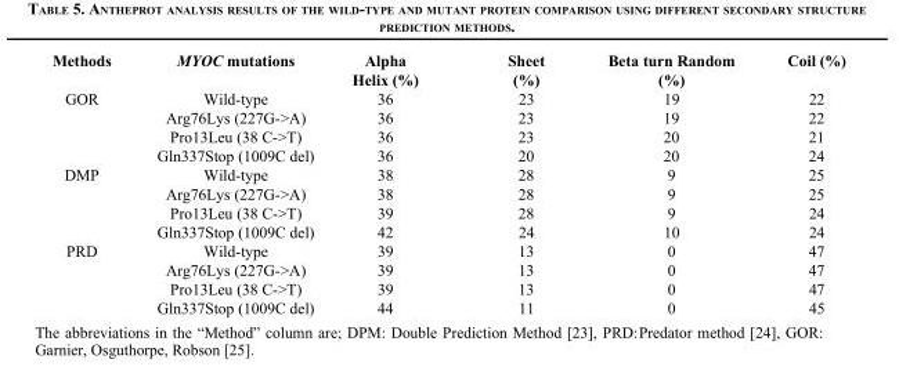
<table><thead><tr><td>Methods</td><td>MYOC mutations</td><td>Alpha Helix (%)</td><td>Sheet (%)</td><td>Beta turn Random (%)</td><td>Coil (%)</td></tr></thead><tbody><tr><td rowspan="4">GOR</td><td>Wild-type</td><td>36</td><td>23</td><td>19</td><td>22</td></tr><tr><td>Arg76Lys (227G-&gt;A)</td><td>36</td><td>23</td><td>19</td><td>22</td></tr><tr><td>Pro13Leu (38 C-&gt;T)</td><td>36</td><td>23</td><td>20</td><td>21</td></tr><tr><td>Gln337Stop (1009C del)</td><td>36</td><td>20</td><td>20</td><td>24</td></tr><tr><td rowspan="4">DMP</td><td>Wild-type</td><td>38</td><td>28</td><td>9</td><td>25</td></tr><tr><td>Arg76Lys (227G-&gt;A)</td><td>38</td><td>28</td><td>9</td><td>25</td></tr><tr><td>Pro13Leu (38 C-&gt;T)</td><td>39</td><td>28</td><td>9</td><td>24</td></tr><tr><td>Gln337Stop (1009C del)</td><td>42</td><td>24</td><td>10</td><td>24</td></tr><tr><td rowspan="4">PRD</td><td>Wild-type</td><td>39</td><td>13</td><td>0</td><td>47</td></tr><tr><td>Arg76Lys (227G-&gt;A)</td><td>39</td><td>13</td><td>0</td><td>47</td></tr><tr><td>Pro13Leu (38 C-&gt;T)</td><td>39</td><td>13</td><td>0</td><td>47</td></tr><tr><td>Gln337Stop (1009C del)</td><td>44</td><td>11</td><td>0</td><td>45</td></tr></tbody></table>